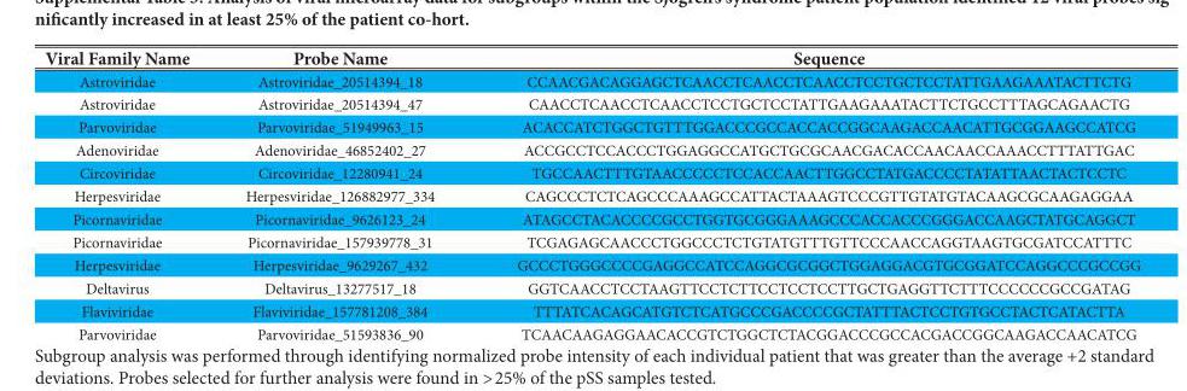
<table><thead><tr><td>Viral Family Name</td><td>Probe Name</td><td>Sequence</td></tr></thead><tbody><tr><td>Astroviridae</td><td>Astroviridae_20514394_18</td><td>CCAACGACAGGAGCTCAACCTCAACCTCAACCTCCTGCTCCTATTGAAGAAATACTTCTG</td></tr><tr><td>Astroviridae</td><td>Astroviridae_20514394_47</td><td>CAACCTCAACCTCAACCTCCTGCTCCTATTGAAGAAATACTTCTGCCTTTAGCAGAACTG</td></tr><tr><td>Parvoviridae</td><td>Parvoviridae_51949963_15</td><td>ACACCATCTGGCTGTTTGGACCCGCCACCACCGGCAAGACCAACATTGCGGAAGCCATCG</td></tr><tr><td>Adenoviridae</td><td>Adenoviridae_46852402_27</td><td>ACCGCCTCCACCCTGGAGGCCATGCTGCGCAACGACACCAACAACCAAACCTTTATTGAC</td></tr><tr><td>Circoviridae</td><td>Circoviridae_12280941_24</td><td>TGCCAACTTTGTAACCCCCTCCACCAACTTGGCCTATGACCCCTATATTAACTACTCCTC</td></tr><tr><td>Herpesviridae</td><td>Herpesviridae_126882977_334</td><td>CAGCCCTCTCAGCCCAAAGCCATTACTAAAGTCCCGTTGTATGTACAAGCGCAAGAGGAA</td></tr><tr><td>Picornaviridae</td><td>Picornaviridae_9626123_24</td><td>ATAGCCTACACCCCGCCTGGTGCGGGAAAGCCCACCACCCGGGACCAAGCTATGCAGGCT</td></tr><tr><td>Picornaviridae</td><td>Picornaviridae_157939778_31</td><td>TCGAGAGCAACCCTGGCCCTCTGTATGTTTGTTCCCAACCAGGTAAGTGCGATCCATTTC</td></tr><tr><td>Herpesviridae</td><td>Herpesviridae_9629267_432</td><td>GCCCTGGGCCCCGAGGCCATCCAGGCGCGGCTGGAGGACGTGCGGATCCAGGCCCGCCGG</td></tr><tr><td>Deltavirus</td><td>Deltavirus_13277517_18</td><td>GGTCAACCTCCTAAGTTCCTCTTCCTCCTCCTTGCTGAGGTTCTTTCCCCCCGCCGATAG</td></tr><tr><td>Flaviviridae</td><td>Flaviviridae_157781208_384</td><td>TTTATCACAGCATGTCTCATGCCCGACCCCGCTATTTACTCCTGTGCCTACTCATACTTA</td></tr><tr><td>Parvoviridae</td><td>Parvoviridae_51593836_90</td><td>TCAACAAGAGGAACACCGTCTGGCTCTACGGACCCGCCACGACCGGCAAGACCAACATCG</td></tr></tbody></table>